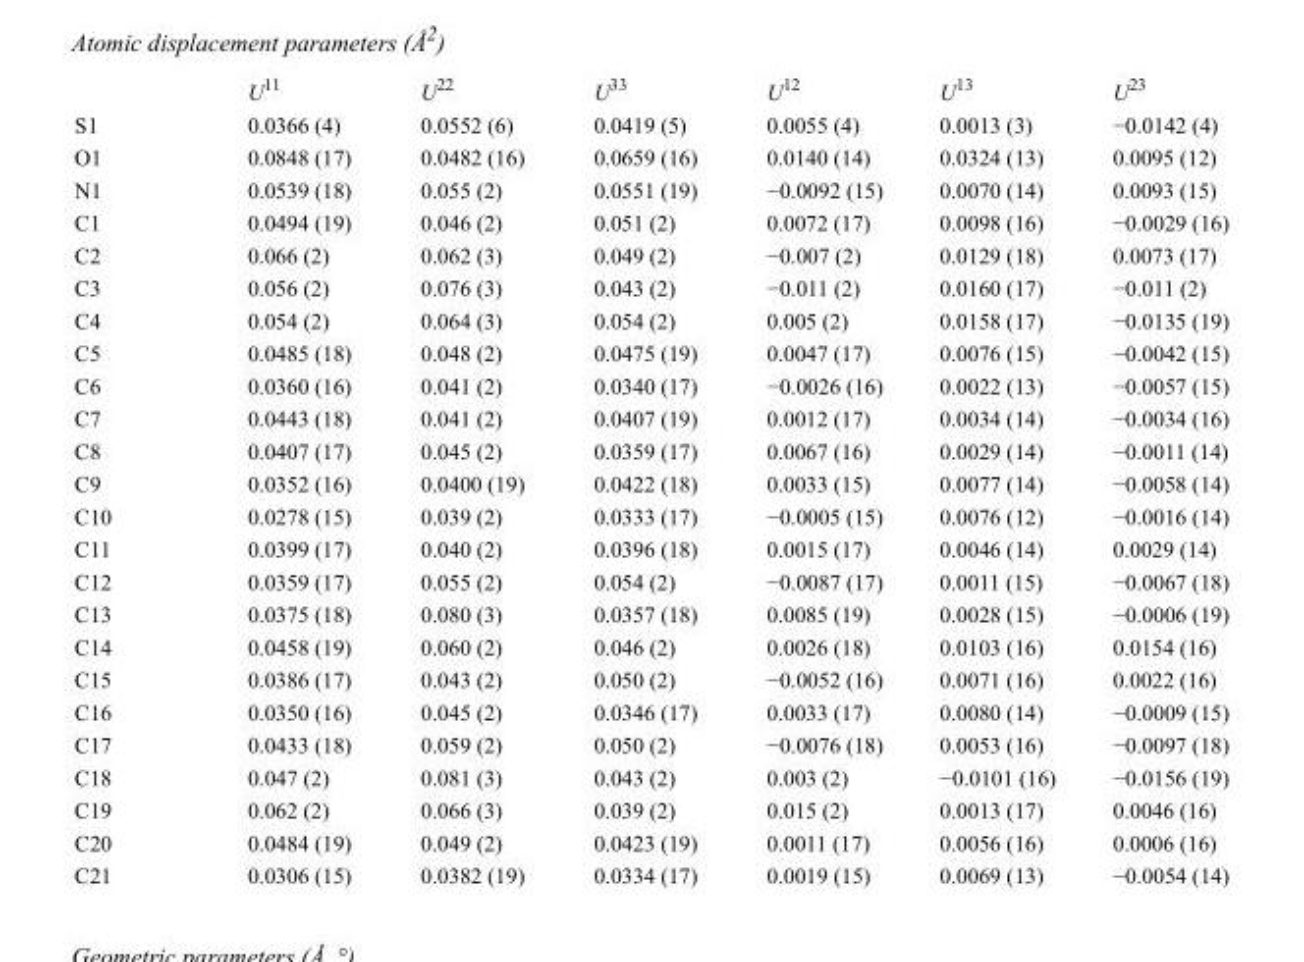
<table><thead><tr><td></td><td>U<sup>11</sup></td><td>U<sup>22</sup></td><td>U<sup>33</sup></td><td>U<sup>12</sup></td><td>U<sup>13</sup></td><td>U<sup>23</sup></td></tr></thead><tbody><tr><td>S1</td><td>0.0366 (4)</td><td>0.0552 (6)</td><td>0.0419 (5)</td><td>0.0055 (4)</td><td>0.0013 (3)</td><td>−0.0142 (4)</td></tr><tr><td>O1</td><td>0.0848 (17)</td><td>0.0482 (16)</td><td>0.0659 (16)</td><td>0.0140 (14)</td><td>0.0324 (13)</td><td>0.0095 (12)</td></tr><tr><td>N1</td><td>0.0539 (18)</td><td>0.055 (2)</td><td>0.0551 (19)</td><td>−0.0092 (15)</td><td>0.0070 (14)</td><td>0.0093 (15)</td></tr><tr><td>C1</td><td>0.0494 (19)</td><td>0.046 (2)</td><td>0.051 (2)</td><td>0.0072 (17)</td><td>0.0098 (16)</td><td>−0.0029 (16)</td></tr><tr><td>C2</td><td>0.066 (2)</td><td>0.062 (3)</td><td>0.049 (2)</td><td>−0.007 (2)</td><td>0.0129 (18)</td><td>0.0073 (17)</td></tr><tr><td>C3</td><td>0.056 (2)</td><td>0.076 (3)</td><td>0.043 (2)</td><td>−0.011 (2)</td><td>0.0160 (17)</td><td>−0.011 (2)</td></tr><tr><td>C4</td><td>0.054 (2)</td><td>0.064 (3)</td><td>0.054 (2)</td><td>0.005 (2)</td><td>0.0158 (17)</td><td>−0.0135 (19)</td></tr><tr><td>C5</td><td>0.0485 (18)</td><td>0.048 (2)</td><td>0.0475 (19)</td><td>0.0047 (17)</td><td>0.0076 (15)</td><td>−0.0042 (15)</td></tr><tr><td>C6</td><td>0.0360 (16)</td><td>0.041 (2)</td><td>0.0340 (17)</td><td>−0.0026 (16)</td><td>0.0022 (13)</td><td>−0.0057 (15)</td></tr><tr><td>C7</td><td>0.0443 (18)</td><td>0.041 (2)</td><td>0.0407 (19)</td><td>0.0012 (17)</td><td>0.0034 (14)</td><td>−0.0034 (16)</td></tr><tr><td>C8</td><td>0.0407 (17)</td><td>0.045 (2)</td><td>0.0359 (17)</td><td>0.0067 (16)</td><td>0.0029 (14)</td><td>−0.0011 (14)</td></tr><tr><td>C9</td><td>0.0352 (16)</td><td>0.0400 (19)</td><td>0.0422 (18)</td><td>0.0033 (15)</td><td>0.0077 (14)</td><td>−0.0058 (14)</td></tr><tr><td>C10</td><td>0.0278 (15)</td><td>0.039 (2)</td><td>0.0333 (17)</td><td>−0.0005 (15)</td><td>0.0076 (12)</td><td>−0.0016 (14)</td></tr><tr><td>C11</td><td>0.0399 (17)</td><td>0.040 (2)</td><td>0.0396 (18)</td><td>0.0015 (17)</td><td>0.0046 (14)</td><td>0.0029 (14)</td></tr><tr><td>C12</td><td>0.0359 (17)</td><td>0.055 (2)</td><td>0.054 (2)</td><td>−0.0087 (17)</td><td>0.0011 (15)</td><td>−0.0067 (18)</td></tr><tr><td>C13</td><td>0.0375 (18)</td><td>0.080 (3)</td><td>0.0357 (18)</td><td>0.0085 (19)</td><td>0.0028 (15)</td><td>−0.0006 (19)</td></tr><tr><td>C14</td><td>0.0458 (19)</td><td>0.060 (2)</td><td>0.046 (2)</td><td>0.0026 (18)</td><td>0.0103 (16)</td><td>0.0154 (16)</td></tr><tr><td>C15</td><td>0.0386 (17)</td><td>0.043 (2)</td><td>0.050 (2)</td><td>−0.0052 (16)</td><td>0.0071 (16)</td><td>0.0022 (16)</td></tr><tr><td>C16</td><td>0.0350 (16)</td><td>0.045 (2)</td><td>0.0346 (17)</td><td>0.0033 (17)</td><td>0.0080 (14)</td><td>−0.0009 (15)</td></tr><tr><td>C17</td><td>0.0433 (18)</td><td>0.059 (2)</td><td>0.050 (2)</td><td>−0.0076 (18)</td><td>0.0053 (16)</td><td>−0.0097 (18)</td></tr><tr><td>C18</td><td>0.047 (2)</td><td>0.081 (3)</td><td>0.043 (2)</td><td>0.003 (2)</td><td>−0.0101 (16)</td><td>−0.0156 (19)</td></tr><tr><td>C19</td><td>0.062 (2)</td><td>0.066 (3)</td><td>0.039 (2)</td><td>0.015 (2)</td><td>0.0013 (17)</td><td>0.0046 (16)</td></tr><tr><td>C20</td><td>0.0484 (19)</td><td>0.049 (2)</td><td>0.0423 (19)</td><td>0.0011 (17)</td><td>0.0056 (16)</td><td>0.0006 (16)</td></tr><tr><td>C21</td><td>0.0306 (15)</td><td>0.0382 (19)</td><td>0.0334 (17)</td><td>0.0019 (15)</td><td>0.0069 (13)</td><td>−0.0054 (14)</td></tr></tbody></table>